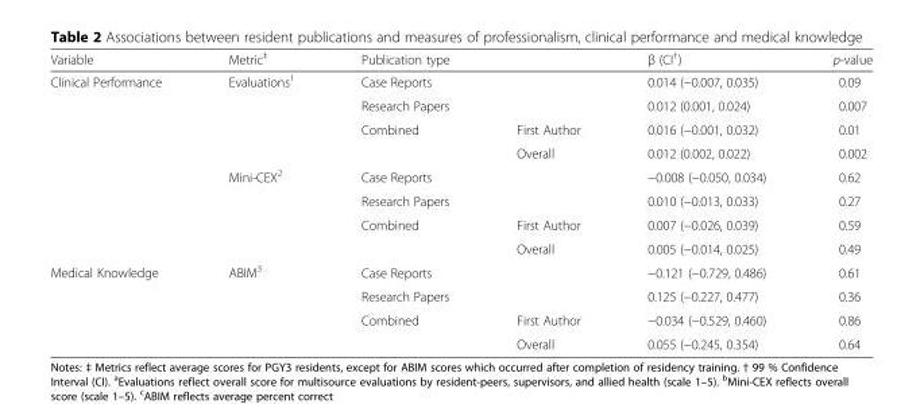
<table><thead><tr><td>Variable</td><td>Metric<sup>‡</sup></td><td>Publication type</td><td></td><td>β (CI<sup>†</sup>)</td><td>p-value</td></tr></thead><tbody><tr><td rowspan="8">Clinical Performance</td><td>Evaluations<sup>1</sup></td><td>Case Reports</td><td></td><td>0.014 (−0.007, 0.035)</td><td>0.09</td></tr><tr><td></td><td>Research Papers</td><td></td><td>0.012 (0.001, 0.024)</td><td>0.007</td></tr><tr><td></td><td>Combined</td><td>First Author</td><td>0.016 (−0.001, 0.032)</td><td>0.01</td></tr><tr><td></td><td></td><td>Overall</td><td>0.012 (0.002, 0.022)</td><td>0.002</td></tr><tr><td>Mini-CEX<sup>2</sup></td><td>Case Reports</td><td></td><td>−0.008 (−0.050, 0.034)</td><td>0.62</td></tr><tr><td></td><td>Research Papers</td><td></td><td>0.010 (−0.013, 0.033)</td><td>0.27</td></tr><tr><td></td><td>Combined</td><td>First Author</td><td>0.007 (−0.026, 0.039)</td><td>0.59</td></tr><tr><td></td><td></td><td>Overall</td><td>0.005 (−0.014, 0.025)</td><td>0.49</td></tr><tr><td rowspan="4">Medical Knowledge</td><td>ABIM<sup>3</sup></td><td>Case Reports</td><td></td><td>−0.121 (−0.729, 0.486)</td><td>0.61</td></tr><tr><td></td><td>Research Papers</td><td></td><td>0.125 (−0.227, 0.477)</td><td>0.36</td></tr><tr><td></td><td>Combined</td><td>First Author</td><td>−0.034 (−0.529, 0.460)</td><td>0.86</td></tr><tr><td></td><td></td><td>Overall</td><td>0.055 (−0.245, 0.354)</td><td>0.64</td></tr></tbody></table>